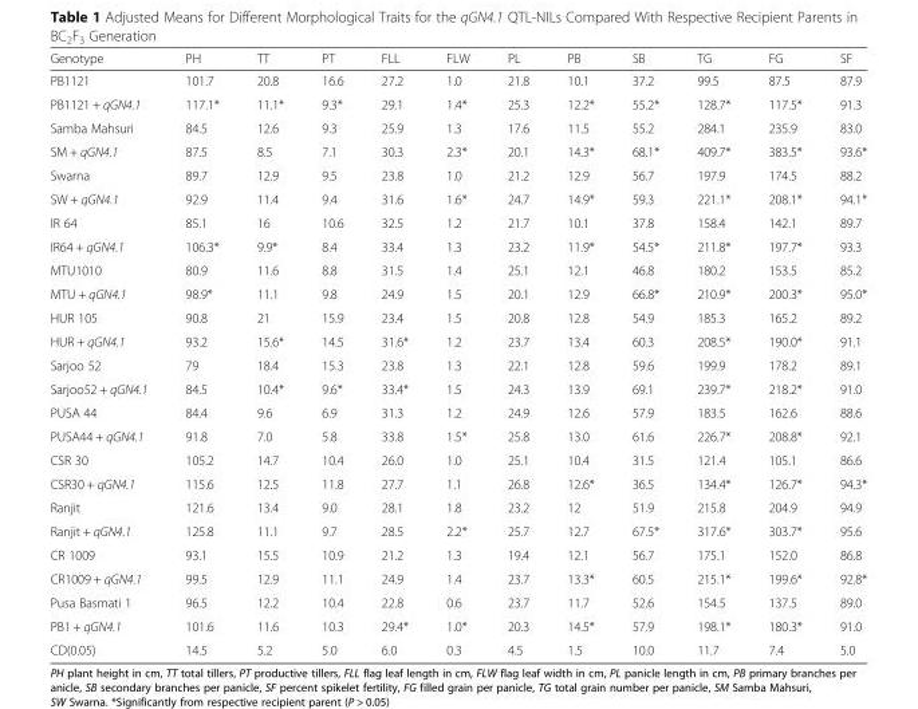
<table><thead><tr><td>Genotype</td><td>PH</td><td>TT</td><td>PT</td><td>FLL</td><td>FLW</td><td>PL</td><td>PB</td><td>SB</td><td>TG</td><td>FG</td><td>SF</td></tr></thead><tbody><tr><td>PB1121</td><td>101.7</td><td>20.8</td><td>16.6</td><td>27.2</td><td>1.0</td><td>21.8</td><td>10.1</td><td>37.2</td><td>99.5</td><td>87.5</td><td>87.9</td></tr><tr><td>PB1121 + qGN4.1</td><td>117.1*</td><td>11.1*</td><td>9.3*</td><td>29.1</td><td>1.4*</td><td>25.3</td><td>12.2*</td><td>55.2*</td><td>128.7*</td><td>117.5*</td><td>91.3</td></tr><tr><td>Samba Mahsuri</td><td>84.5</td><td>12.6</td><td>9.3</td><td>25.9</td><td>1.3</td><td>17.6</td><td>11.5</td><td>55.2</td><td>284.1</td><td>235.9</td><td>83.0</td></tr><tr><td>SM + qGN4.1</td><td>87.5</td><td>8.5</td><td>7.1</td><td>30.3</td><td>2.3*</td><td>20.1</td><td>14.3*</td><td>68.1*</td><td>409.7*</td><td>383.5*</td><td>93.6*</td></tr><tr><td>Swarna</td><td>89.7</td><td>12.9</td><td>9.5</td><td>23.8</td><td>1.0</td><td>21.2</td><td>12.9</td><td>56.7</td><td>197.9</td><td>174.5</td><td>88.2</td></tr><tr><td>SW + qGN4.1</td><td>92.9</td><td>11.4</td><td>9.4</td><td>31.6</td><td>1.6*</td><td>24.7</td><td>14.9*</td><td>59.3</td><td>221.1*</td><td>208.1*</td><td>94.1*</td></tr><tr><td>IR 64</td><td>85.1</td><td>16</td><td>10.6</td><td>32.5</td><td>1.2</td><td>21.7</td><td>10.1</td><td>37.8</td><td>158.4</td><td>142.1</td><td>89.7</td></tr><tr><td>IR64 + qGN4.1</td><td>106.3*</td><td>9.9*</td><td>8.4</td><td>33.4</td><td>1.3</td><td>23.2</td><td>11.9*</td><td>54.5*</td><td>211.8*</td><td>197.7*</td><td>93.3</td></tr><tr><td>MTU1010</td><td>80.9</td><td>11.6</td><td>8.8</td><td>31.5</td><td>1.4</td><td>25.1</td><td>12.1</td><td>46.8</td><td>180.2</td><td>153.5</td><td>85.2</td></tr><tr><td>MTU + qGN4.1</td><td>98.9*</td><td>11.1</td><td>9.8</td><td>24.9</td><td>1.5</td><td>20.1</td><td>12.9</td><td>66.8*</td><td>210.9*</td><td>200.3*</td><td>95.0*</td></tr><tr><td>HUR 105</td><td>90.8</td><td>21</td><td>15.9</td><td>23.4</td><td>1.5</td><td>20.8</td><td>12.8</td><td>54.9</td><td>185.3</td><td>165.2</td><td>89.2</td></tr><tr><td>HUR + qGN4.1</td><td>93.2</td><td>15.6*</td><td>14.5</td><td>31.6*</td><td>1.2</td><td>23.7</td><td>13.4</td><td>60.3</td><td>208.5*</td><td>190.0*</td><td>91.1</td></tr><tr><td>Sarjoo 52</td><td>79</td><td>18.4</td><td>15.3</td><td>23.8</td><td>1.3</td><td>22.1</td><td>12.8</td><td>59.6</td><td>199.9</td><td>178.2</td><td>89.1</td></tr><tr><td>Sarjoo52 + qGN4.1</td><td>84.5</td><td>10.4*</td><td>9.6*</td><td>33.4*</td><td>1.5</td><td>24.3</td><td>13.9</td><td>69.1</td><td>239.7*</td><td>218.2*</td><td>91.0</td></tr><tr><td>PUSA 44</td><td>84.4</td><td>9.6</td><td>6.9</td><td>31.3</td><td>1.2</td><td>24.9</td><td>12.6</td><td>57.9</td><td>183.5</td><td>162.6</td><td>88.6</td></tr><tr><td>PUSA44 + qGN4.1</td><td>91.8</td><td>7.0</td><td>5.8</td><td>33.8</td><td>1.5*</td><td>25.8</td><td>13.0</td><td>61.6</td><td>226.7*</td><td>208.8*</td><td>92.1</td></tr><tr><td>CSR 30</td><td>105.2</td><td>14.7</td><td>10.4</td><td>26.0</td><td>1.0</td><td>25.1</td><td>10.4</td><td>31.5</td><td>121.4</td><td>105.1</td><td>86.6</td></tr><tr><td>CSR30 + qGN4.1</td><td>115.6</td><td>12.5</td><td>11.8</td><td>27.7</td><td>1.1</td><td>26.8</td><td>12.6*</td><td>36.5</td><td>134.4*</td><td>126.7*</td><td>94.3*</td></tr><tr><td>Ranjit</td><td>121.6</td><td>13.4</td><td>9.0</td><td>28.1</td><td>1.8</td><td>23.2</td><td>12</td><td>51.9</td><td>215.8</td><td>204.9</td><td>94.9</td></tr><tr><td>Ranjit + qGN4.1</td><td>125.8</td><td>11.1</td><td>9.7</td><td>28.5</td><td>2.2*</td><td>25.7</td><td>12.7</td><td>67.5*</td><td>317.6*</td><td>303.7*</td><td>95.6</td></tr><tr><td>CR 1009</td><td>93.1</td><td>15.5</td><td>10.9</td><td>21.2</td><td>1.3</td><td>19.4</td><td>12.1</td><td>56.7</td><td>175.1</td><td>152.0</td><td>86.8</td></tr><tr><td>CR1009 + qGN4.1</td><td>99.5</td><td>12.9</td><td>11.1</td><td>24.9</td><td>1.4</td><td>23.7</td><td>13.3*</td><td>60.5</td><td>215.1*</td><td>199.6*</td><td>92.8*</td></tr><tr><td>Pusa Basmati 1</td><td>96.5</td><td>12.2</td><td>10.4</td><td>22.8</td><td>0.6</td><td>23.7</td><td>11.7</td><td>52.6</td><td>154.5</td><td>137.5</td><td>89.0</td></tr><tr><td>PB1 + qGN4.1</td><td>101.6</td><td>11.6</td><td>10.3</td><td>29.4*</td><td>1.0*</td><td>20.3</td><td>14.5*</td><td>57.9</td><td>198.1*</td><td>180.3*</td><td>91.0</td></tr><tr><td>CD(0.05)</td><td>14.5</td><td>5.2</td><td>5.0</td><td>6.0</td><td>0.3</td><td>4.5</td><td>1.5</td><td>10.0</td><td>11.7</td><td>7.4</td><td>5.0</td></tr></tbody></table>